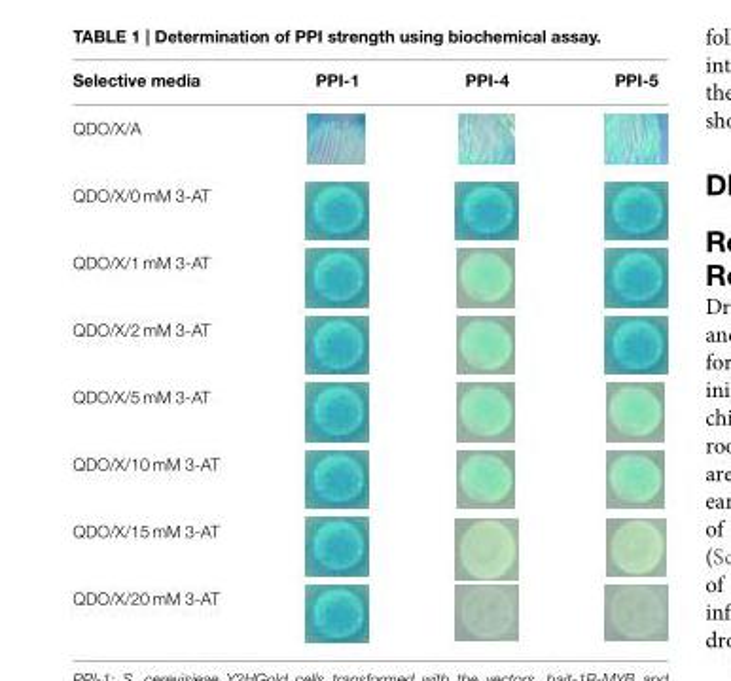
<table><thead><tr><td>Selective media</td><td>PPI-1</td><td>PPI-4</td><td>PPI-5</td></tr></thead><tbody><tr><td colspan="4">QDO/X/A</td></tr><tr><td colspan="4">QDO/X/0 mM 3-AT</td></tr><tr><td colspan="4">QDO/X/1 mM 3-AT</td></tr><tr><td colspan="4">QDO/X/2 mM 3-AT</td></tr><tr><td colspan="4">QDO/X/5 mM 3-AT</td></tr><tr><td colspan="4">QDO/X/10 mM 3-AT</td></tr><tr><td colspan="4">QDO/X/15 mM 3-AT</td></tr><tr><td>QDO/X/20 mM 3-AT</td><td></td><td></td><td></td></tr></tbody></table>